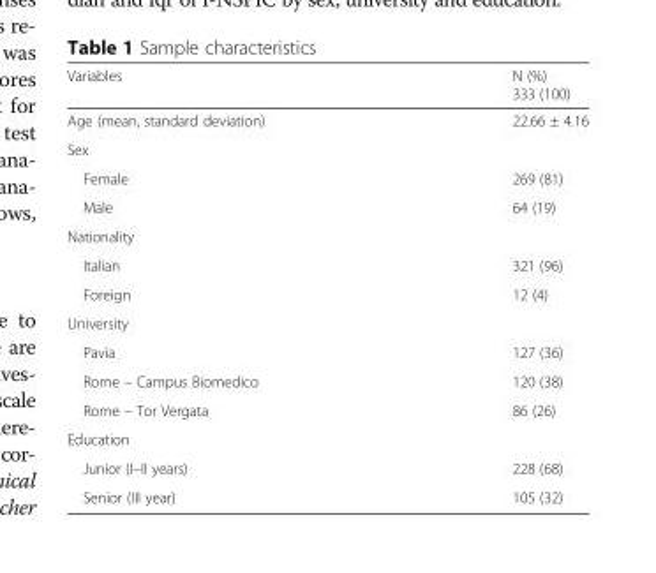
<table><thead><tr><td>Variables</td><td>N (%) 333 (100)</td></tr></thead><tbody><tr><td>Age (mean, standard deviation)</td><td>22.66 ± 4.16</td></tr><tr><td colspan="2">Sex</td></tr><tr><td>Female</td><td>269 (81)</td></tr><tr><td>Male</td><td>64 (19)</td></tr><tr><td colspan="2">Nationality</td></tr><tr><td>Italian</td><td>321 (96)</td></tr><tr><td>Foreign</td><td>12 (4)</td></tr><tr><td colspan="2">University</td></tr><tr><td>Pavia</td><td>127 (36)</td></tr><tr><td>Rome – Campus Biomedico</td><td>120 (38)</td></tr><tr><td>Rome – Tor Vergata</td><td>86 (26)</td></tr><tr><td colspan="2">Education</td></tr><tr><td>Junior (I–II years)</td><td>228 (68)</td></tr><tr><td>Senior (III year)</td><td>105 (32)</td></tr></tbody></table>